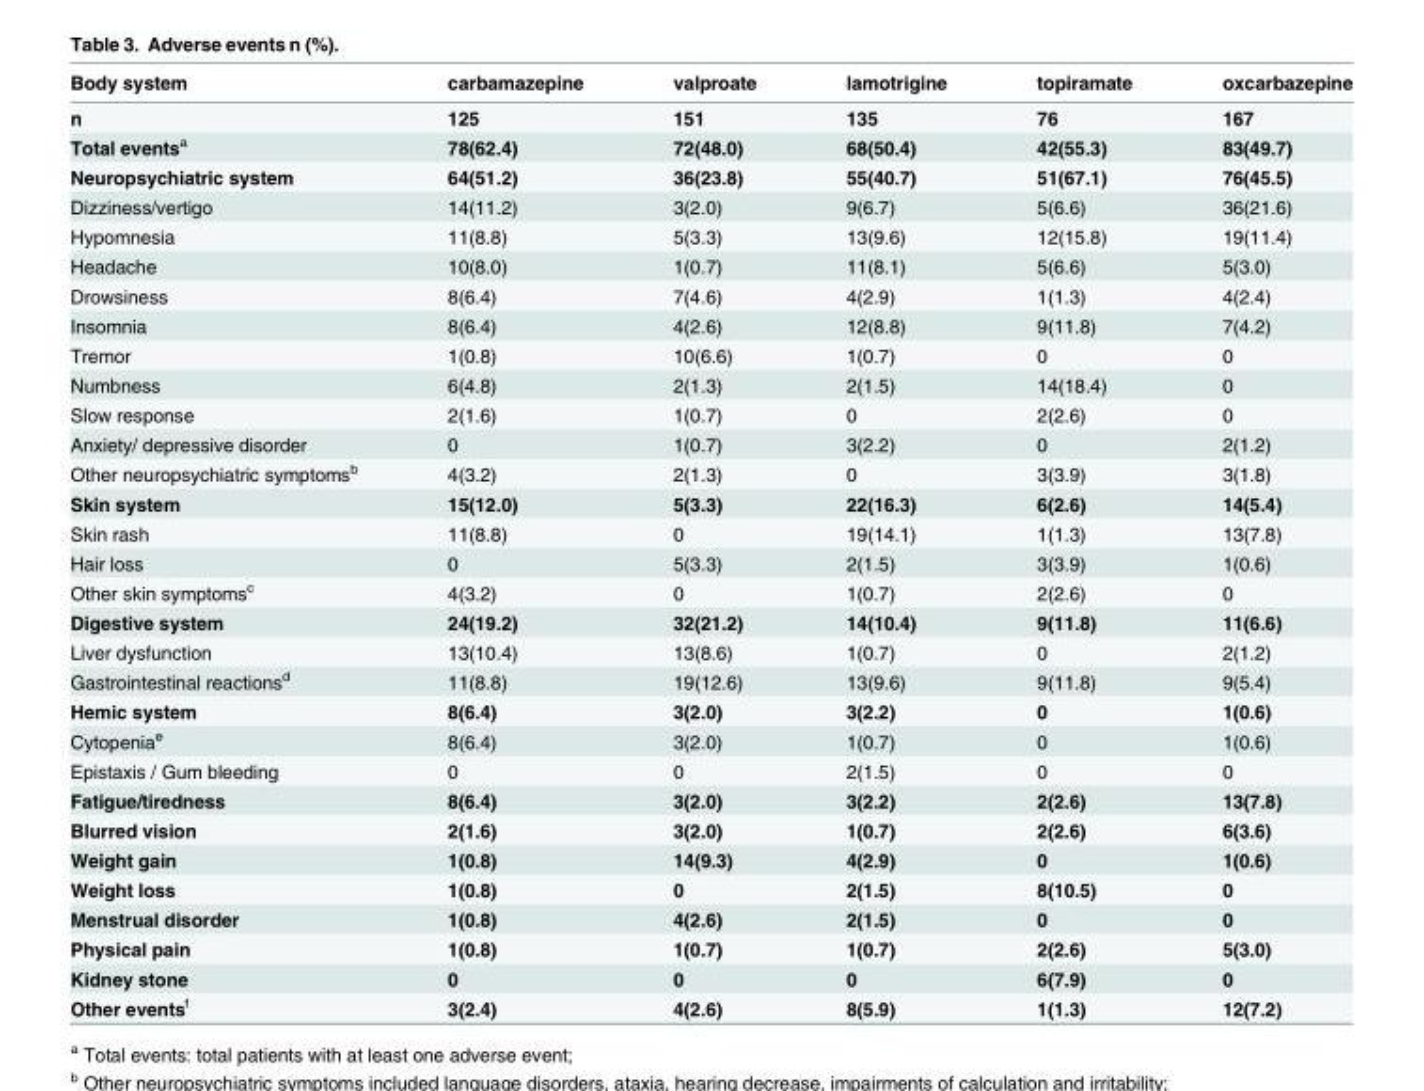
<table><thead><tr><td>Body system</td><td>carbamazepine</td><td>valproate</td><td>lamotrigine</td><td>topiramate</td><td>oxcarbazepine</td></tr></thead><tbody><tr><td>n</td><td>125</td><td>151</td><td>135</td><td>76</td><td>167</td></tr><tr><td>Total events<sup>a</sup></td><td>78(62.4)</td><td>72(48.0)</td><td>68(50.4)</td><td>42(55.3)</td><td>83(49.7)</td></tr><tr><td>Neuropsychiatric system</td><td>64(51.2)</td><td>36(23.8)</td><td>55(40.7)</td><td>51(67.1)</td><td>76(45.5)</td></tr><tr><td>Dizziness/vertigo</td><td>14(11.2)</td><td>3(2.0)</td><td>9(6.7)</td><td>5(6.6)</td><td>36(21.6)</td></tr><tr><td>Hypomnesia</td><td>11(8.8)</td><td>5(3.3)</td><td>13(9.6)</td><td>12(15.8)</td><td>19(11.4)</td></tr><tr><td>Headache</td><td>10(8.0)</td><td>1(0.7)</td><td>11(8.1)</td><td>5(6.6)</td><td>5(3.0)</td></tr><tr><td>Drowsiness</td><td>8(6.4)</td><td>7(4.6)</td><td>4(2.9)</td><td>1(1.3)</td><td>4(2.4)</td></tr><tr><td>Insomnia</td><td>8(6.4)</td><td>4(2.6)</td><td>12(8.8)</td><td>9(11.8)</td><td>7(4.2)</td></tr><tr><td>Tremor</td><td>1(0.8)</td><td>10(6.6)</td><td>1(0.7)</td><td>0</td><td>0</td></tr><tr><td>Numbness</td><td>6(4.8)</td><td>2(1.3)</td><td>2(1.5)</td><td>14(18.4)</td><td>0</td></tr><tr><td>Slow response</td><td>2(1.6)</td><td>1(0.7)</td><td>0</td><td>2(2.6)</td><td>0</td></tr><tr><td>Anxiety/ depressive disorder</td><td>0</td><td>1(0.7)</td><td>3(2.2)</td><td>0</td><td>2(1.2)</td></tr><tr><td>Other neuropsychiatric symptoms<sup>b</sup></td><td>4(3.2)</td><td>2(1.3)</td><td>0</td><td>3(3.9)</td><td>3(1.8)</td></tr><tr><td>Skin system</td><td>15(12.0)</td><td>5(3.3)</td><td>22(16.3)</td><td>6(2.6)</td><td>14(5.4)</td></tr><tr><td>Skin rash</td><td>11(8.8)</td><td>0</td><td>19(14.1)</td><td>1(1.3)</td><td>13(7.8)</td></tr><tr><td>Hair loss</td><td>0</td><td>5(3.3)</td><td>2(1.5)</td><td>3(3.9)</td><td>1(0.6)</td></tr><tr><td>Other skin symptoms<sup>c</sup></td><td>4(3.2)</td><td>0</td><td>1(0.7)</td><td>2(2.6)</td><td>0</td></tr><tr><td>Digestive system</td><td>24(19.2)</td><td>32(21.2)</td><td>14(10.4)</td><td>9(11.8)</td><td>11(6.6)</td></tr><tr><td>Liver dysfunction</td><td>13(10.4)</td><td>13(8.6)</td><td>1(0.7)</td><td>0</td><td>2(1.2)</td></tr><tr><td>Gastrointestinal reactions<sup>d</sup></td><td>11(8.8)</td><td>19(12.6)</td><td>13(9.6)</td><td>9(11.8)</td><td>9(5.4)</td></tr><tr><td>Hemic system</td><td>8(6.4)</td><td>3(2.0)</td><td>3(2.2)</td><td>0</td><td>1(0.6)</td></tr><tr><td>Cytopenia<sup>e</sup></td><td>8(6.4)</td><td>3(2.0)</td><td>1(0.7)</td><td>0</td><td>1(0.6)</td></tr><tr><td>Epistaxis / Gum bleeding</td><td>0</td><td>0</td><td>2(1.5)</td><td>0</td><td>0</td></tr><tr><td>Fatigue/tiredness</td><td>8(6.4)</td><td>3(2.0)</td><td>3(2.2)</td><td>2(2.6)</td><td>13(7.8)</td></tr><tr><td>Blurred vision</td><td>2(1.6)</td><td>3(2.0)</td><td>1(0.7)</td><td>2(2.6)</td><td>6(3.6)</td></tr><tr><td>Weight gain</td><td>1(0.8)</td><td>14(9.3)</td><td>4(2.9)</td><td>0</td><td>1(0.6)</td></tr><tr><td>Weight loss</td><td>1(0.8)</td><td>0</td><td>2(1.5)</td><td>8(10.5)</td><td>0</td></tr><tr><td>Menstrual disorder</td><td>1(0.8)</td><td>4(2.6)</td><td>2(1.5)</td><td>0</td><td>0</td></tr><tr><td>Physical pain</td><td>1(0.8)</td><td>1(0.7)</td><td>1(0.7)</td><td>2(2.6)</td><td>5(3.0)</td></tr><tr><td>Kidney stone</td><td>0</td><td>0</td><td>0</td><td>6(7.9)</td><td>0</td></tr><tr><td>Other events<sup>f</sup></td><td>3(2.4)</td><td>4(2.6)</td><td>8(5.9)</td><td>1(1.3)</td><td>12(7.2)</td></tr></tbody></table>